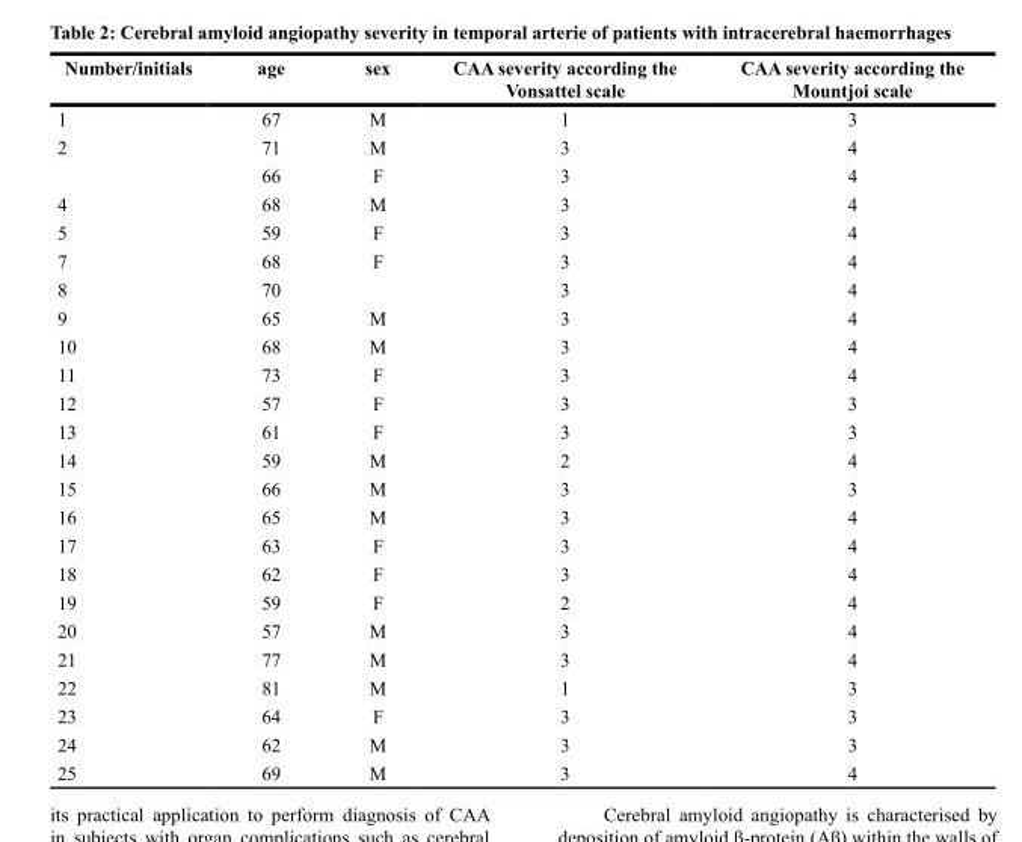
<table><thead><tr><td>Number/initials</td><td>age</td><td>sex</td><td>CAA severity according the Vonsattel scale</td><td>CAA severity according the Mountjoi scale</td></tr></thead><tbody><tr><td>1</td><td>67</td><td>M</td><td>1</td><td>3</td></tr><tr><td rowspan="2">2</td><td>71</td><td>M</td><td>3</td><td>4</td></tr><tr><td>66</td><td>F</td><td>3</td><td>4</td></tr><tr><td>4</td><td>68</td><td>M</td><td>3</td><td>4</td></tr><tr><td>5</td><td>59</td><td>F</td><td>3</td><td>4</td></tr><tr><td>7</td><td>68</td><td>F</td><td>3</td><td>4</td></tr><tr><td>8</td><td>70</td><td></td><td>3</td><td>4</td></tr><tr><td>9</td><td>65</td><td>M</td><td>3</td><td>4</td></tr><tr><td>10</td><td>68</td><td>M</td><td>3</td><td>4</td></tr><tr><td>11</td><td>73</td><td>F</td><td>3</td><td>4</td></tr><tr><td>12</td><td>57</td><td>F</td><td>3</td><td>3</td></tr><tr><td>13</td><td>61</td><td>F</td><td>3</td><td>3</td></tr><tr><td>14</td><td>59</td><td>M</td><td>2</td><td>4</td></tr><tr><td>15</td><td>66</td><td>M</td><td>3</td><td>3</td></tr><tr><td>16</td><td>65</td><td>M</td><td>3</td><td>4</td></tr><tr><td>17</td><td>63</td><td>F</td><td>3</td><td>4</td></tr><tr><td>18</td><td>62</td><td>F</td><td>3</td><td>4</td></tr><tr><td>19</td><td>59</td><td>F</td><td>2</td><td>4</td></tr><tr><td>20</td><td>57</td><td>M</td><td>3</td><td>4</td></tr><tr><td>21</td><td>77</td><td>M</td><td>3</td><td>4</td></tr><tr><td>22</td><td>81</td><td>M</td><td>1</td><td>3</td></tr><tr><td>23</td><td>64</td><td>F</td><td>3</td><td>3</td></tr><tr><td>24</td><td>62</td><td>M</td><td>3</td><td>3</td></tr><tr><td>25</td><td>69</td><td>M</td><td>3</td><td>4</td></tr></tbody></table>